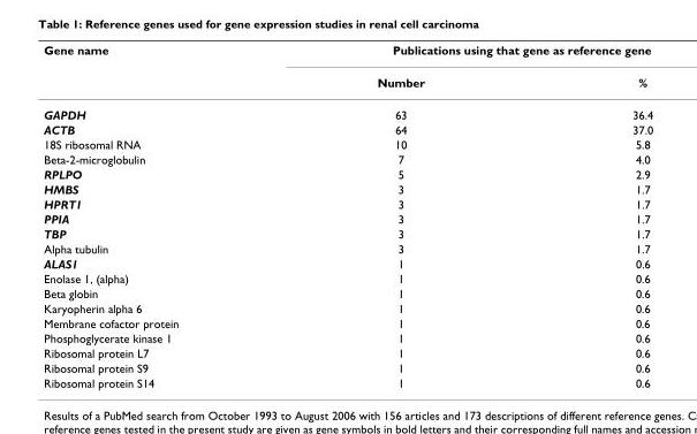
<table><thead><tr><td rowspan="2">Gene name</td><td colspan="2">Publications using that gene as reference gene</td></tr><tr><td>Number</td><td>%</td></tr></thead><tbody><tr><td>GAPDH</td><td>63</td><td>36.4</td></tr><tr><td>ACTB</td><td>64</td><td>37.0</td></tr><tr><td>18S ribosomal RNA</td><td>10</td><td>5.8</td></tr><tr><td>Beta-2-microglobulin</td><td>7</td><td>4.0</td></tr><tr><td>RPLPO</td><td>5</td><td>2.9</td></tr><tr><td>HMBS</td><td>3</td><td>1.7</td></tr><tr><td>HPRT1</td><td>3</td><td>1.7</td></tr><tr><td>PPIA</td><td>3</td><td>1.7</td></tr><tr><td>TBP</td><td>3</td><td>1.7</td></tr><tr><td>Alpha tubulin</td><td>3</td><td>1.7</td></tr><tr><td>ALAS1</td><td>1</td><td>0.6</td></tr><tr><td>Enolase 1, (alpha)</td><td>1</td><td>0.6</td></tr><tr><td>Beta globin</td><td>1</td><td>0.6</td></tr><tr><td>Karyopherin alpha 6</td><td>1</td><td>0.6</td></tr><tr><td>Membrane cofactor protein</td><td>1</td><td>0.6</td></tr><tr><td>Phosphoglycerate kinase 1</td><td>1</td><td>0.6</td></tr><tr><td>Ribosomal protein L7</td><td>1</td><td>0.6</td></tr><tr><td>Ribosomal protein S9</td><td>1</td><td>0.6</td></tr><tr><td>Ribosomal protein S14</td><td>1</td><td>0.6</td></tr></tbody></table>